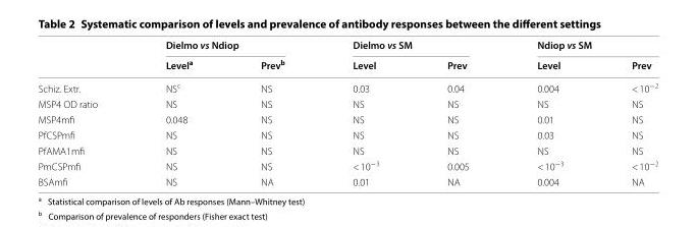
<table><thead><tr><td rowspan="2"></td><td colspan="2">Dielmo vs Ndiop</td><td colspan="2">Dielmo vs SM</td><td colspan="2">Ndiop vs SM</td></tr><tr><td>Level<sup>a</sup></td><td>Prev<sup>b</sup></td><td>Level</td><td>Prev</td><td>Level</td><td>Prev</td></tr></thead><tbody><tr><td>Schiz. Extr.</td><td>NS<sup>c</sup></td><td>NS</td><td>0.03</td><td>0.04</td><td>0.004</td><td>&lt; 10<sup>−2</sup></td></tr><tr><td>MSP4 OD ratio</td><td>NS</td><td>NS</td><td>NS</td><td>NS</td><td>NS</td><td>NS</td></tr><tr><td>MSP4mfi</td><td>0.048</td><td>NS</td><td>NS</td><td>NS</td><td>0.01</td><td>NS</td></tr><tr><td>PfCSPmfi</td><td>NS</td><td>NS</td><td>NS</td><td>NS</td><td>0.03</td><td>NS</td></tr><tr><td>PfAMA1mfi</td><td>NS</td><td>NS</td><td>NS</td><td>NS</td><td>NS</td><td>NS</td></tr><tr><td>PmCSPmfi</td><td>NS</td><td>NS</td><td>&lt; 10<sup>−3</sup></td><td>0.005</td><td>&lt; 10<sup>−3</sup></td><td>&lt; 10<sup>−2</sup></td></tr><tr><td>BSAmfi</td><td>NS</td><td>NA</td><td>0.01</td><td>NA</td><td>0.004</td><td>NA</td></tr></tbody></table>